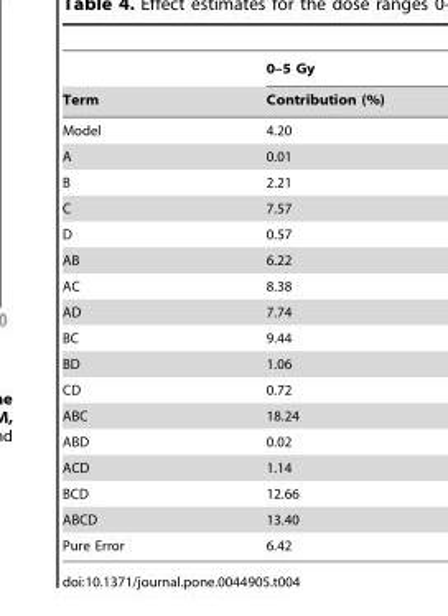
<table><thead><tr><td rowspan="2">Term</td><td rowspan="2">0–5 Gy Contribution (%)</td></tr><tr></tr></thead><tbody><tr><td>Model</td><td>4.20</td></tr><tr><td>A</td><td>0.01</td></tr><tr><td>B</td><td>2.21</td></tr><tr><td>C</td><td>7.57</td></tr><tr><td>D</td><td>0.57</td></tr><tr><td>AB</td><td>6.22</td></tr><tr><td>AC</td><td>8.38</td></tr><tr><td>AD</td><td>7.74</td></tr><tr><td>BC</td><td>9.44</td></tr><tr><td>BD</td><td>1.06</td></tr><tr><td>CD</td><td>0.72</td></tr><tr><td>ABC</td><td>18.24</td></tr><tr><td>ABD</td><td>0.02</td></tr><tr><td>ACD</td><td>1.14</td></tr><tr><td>BCD</td><td>12.66</td></tr><tr><td>ABCD</td><td>13.40</td></tr><tr><td>Pure Error</td><td>6.42</td></tr></tbody></table>